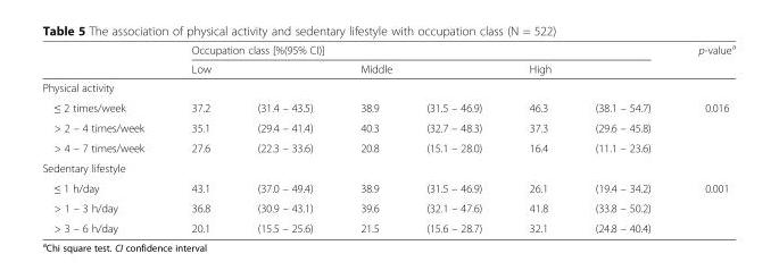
<table><thead><tr><td rowspan="2"></td><td colspan="6">Occupation class [%(95% CI)]</td><td rowspan="2">p-value<sup>a</sup></td></tr><tr><td colspan="2">Low</td><td colspan="2">Middle</td><td colspan="2">High</td></tr><tr><td colspan="8">Physical activity</td></tr><tr><td>≤ 2 times/week</td><td>37.2</td><td>(31.4 – 43.5)</td><td>38.9</td><td>(31.5 – 46.9)</td><td>46.3</td><td>(38.1 – 54.7)</td><td>0.016</td></tr></thead><tbody><tr><td>&gt; 2 – 4 times/week</td><td>35.1</td><td>(29.4 – 41.4)</td><td>40.3</td><td>(32.7 – 48.3)</td><td>37.3</td><td>(29.6 – 45.8)</td><td></td></tr><tr><td>&gt; 4 – 7 times/week</td><td>27.6</td><td>(22.3 – 33.6)</td><td>20.8</td><td>(15.1 – 28.0)</td><td>16.4</td><td>(11.1 – 23.6)</td><td></td></tr><tr><td colspan="8">Sedentary lifestyle</td></tr><tr><td>≤ 1 h/day</td><td>43.1</td><td>(37.0 – 49.4)</td><td>38.9</td><td>(31.5 – 46.9)</td><td>26.1</td><td>(19.4 – 34.2)</td><td>0.001</td></tr><tr><td>&gt; 1 – 3 h/day</td><td>36.8</td><td>(30.9 – 43.1)</td><td>39.6</td><td>(32.1 – 47.6)</td><td>41.8</td><td>(33.8 – 50.2)</td><td></td></tr><tr><td>&gt; 3 – 6 h/day</td><td>20.1</td><td>(15.5 – 25.6)</td><td>21.5</td><td>(15.6 – 28.7)</td><td>32.1</td><td>(24.8 – 40.4)</td><td></td></tr></tbody></table>